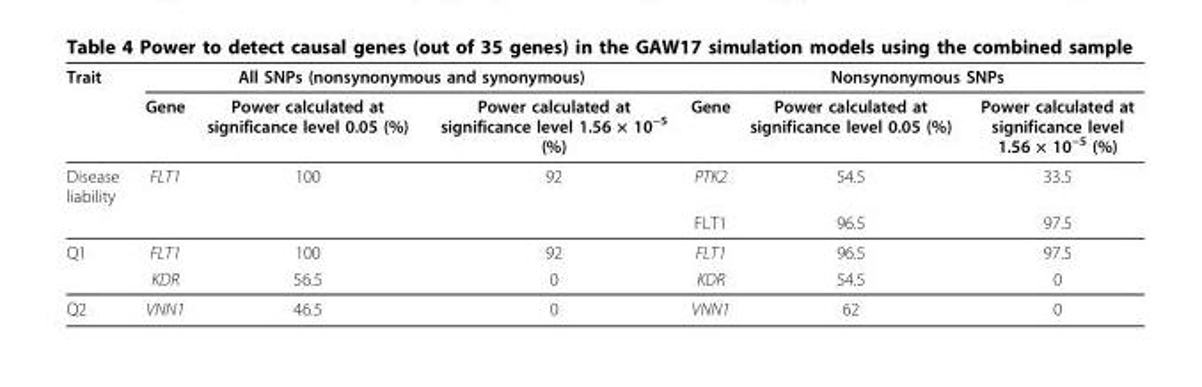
<table><thead><tr><td rowspan="2">Trait</td><td colspan="3">All SNPs (nonsynonymous and synonymous)</td><td colspan="3">Nonsynonymous SNPs</td></tr><tr><td>Gene</td><td>Power calculated at significance level 0.05 (%)</td><td>Power calculated at significance level 1.56 × 10<sup>−5</sup> (%)</td><td>Gene</td><td>Power calculated at significance level 0.05 (%)</td><td>Power calculated at significance level 1.56 × 10<sup>−5</sup> (%)</td></tr></thead><tbody><tr><td rowspan="2">Disease liability</td><td>FLT1</td><td>100</td><td>92</td><td>PTK2</td><td>54.5</td><td>33.5</td></tr><tr><td></td><td></td><td></td><td>FLT1</td><td>96.5</td><td>97.5</td></tr><tr><td rowspan="2">Q1</td><td>FLT1</td><td>100</td><td>92</td><td>FLT1</td><td>96.5</td><td>97.5</td></tr><tr><td>KDR</td><td>56.5</td><td>0</td><td>KDR</td><td>54.5</td><td>0</td></tr><tr><td>Q2</td><td>VNN1</td><td>46.5</td><td>0</td><td>VNN1</td><td>62</td><td>0</td></tr></tbody></table>